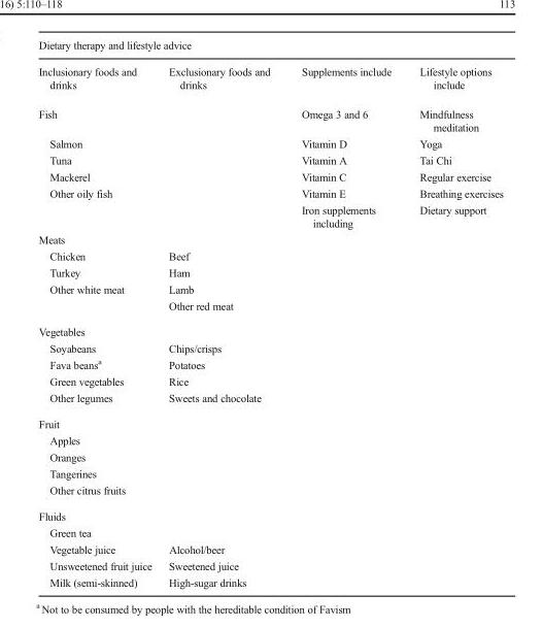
<table><thead><tr><td colspan="4">Dietary therapy and lifestyle advice</td></tr><tr><td>Inclusionary foods and drinks</td><td>Exclusionary foods and drinks</td><td>Supplements include</td><td>Lifestyle options include</td></tr></thead><tbody><tr><td>Fish</td><td></td><td>Omega 3 and 6</td><td>Mindfulness meditation</td></tr><tr><td>Salmon</td><td></td><td>Vitamin D</td><td>Yoga</td></tr><tr><td>Tuna</td><td></td><td>Vitamin A</td><td>Tai Chi</td></tr><tr><td>Mackerel</td><td></td><td>Vitamin C</td><td>Regular exercise</td></tr><tr><td rowspan="2">Other oily fish</td><td></td><td>Vitamin E</td><td>Breathing exercises</td></tr><tr><td></td><td>Iron supplements including</td><td>Dietary support</td></tr><tr><td colspan="4">Meats</td></tr><tr><td>Chicken</td><td>Beef</td><td></td><td></td></tr><tr><td>Turkey</td><td>Ham</td><td></td><td></td></tr><tr><td rowspan="2">Other white meat</td><td>Lamb</td><td></td><td></td></tr><tr><td>Other red meat</td><td></td><td></td></tr><tr><td colspan="4">Vegetables</td></tr><tr><td>Soyabeans</td><td>Chips/crisps</td><td></td><td></td></tr><tr><td>Fava beans<sup>a</sup></td><td>Potatoes</td><td></td><td></td></tr><tr><td>Green vegetables</td><td>Rice</td><td></td><td></td></tr><tr><td>Other legumes</td><td>Sweets and chocolate</td><td></td><td></td></tr><tr><td colspan="4">Fruit</td></tr><tr><td colspan="4">Apples</td></tr><tr><td colspan="4">Oranges</td></tr><tr><td colspan="4">Tangerines</td></tr><tr><td colspan="4">Other citrus fruits</td></tr><tr><td colspan="4">Fluids</td></tr><tr><td colspan="4">Green tea</td></tr><tr><td>Vegetable juice</td><td>Alcohol/beer</td><td></td><td></td></tr><tr><td>Unsweetened fruit juice</td><td>Sweetened juice</td><td></td><td></td></tr><tr><td>Milk (semi-skinned)</td><td>High-sugar drinks</td><td></td><td></td></tr></tbody></table>